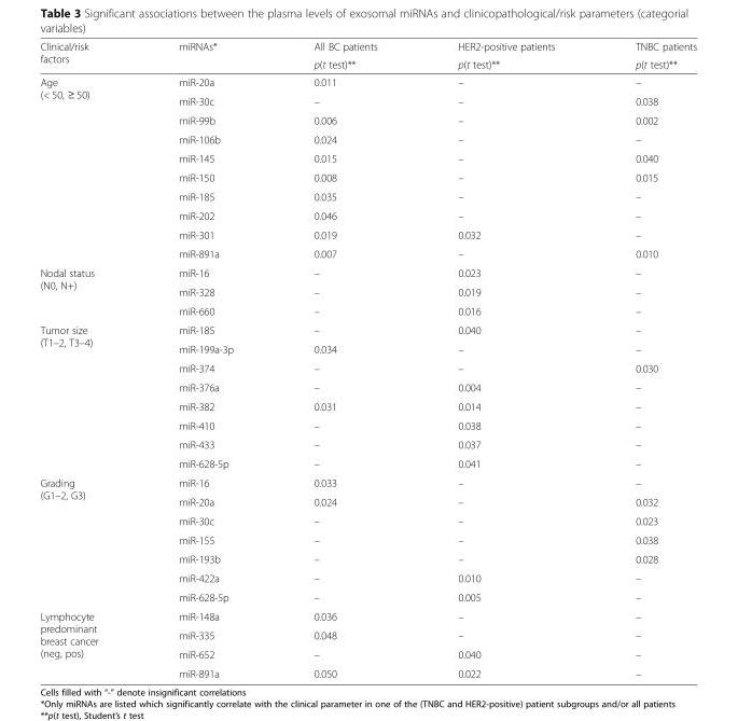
<table><thead><tr><td rowspan="2">Clinical/risk factors</td><td rowspan="2">miRNAs*</td><td rowspan="2">All BC patients p(t test)**</td><td rowspan="2">HER2-positive patients p(t test)**</td><td rowspan="2">TNBC patients p(t test)**</td></tr><tr></tr></thead><tbody><tr><td rowspan="10">Age (&lt; 50, ≥ 50)</td><td>miR-20a</td><td>0.011</td><td>–</td><td>–</td></tr><tr><td>miR-30c</td><td>–</td><td>–</td><td>0.038</td></tr><tr><td>miR-99b</td><td>0.006</td><td>–</td><td>0.002</td></tr><tr><td>miR-106b</td><td>0.024</td><td>–</td><td>–</td></tr><tr><td>miR-145</td><td>0.015</td><td>–</td><td>0.040</td></tr><tr><td>miR-150</td><td>0.008</td><td>–</td><td>0.015</td></tr><tr><td>miR-185</td><td>0.035</td><td>–</td><td>–</td></tr><tr><td>miR-202</td><td>0.046</td><td>–</td><td>–</td></tr><tr><td>miR-301</td><td>0.019</td><td>0.032</td><td>–</td></tr><tr><td>miR-891a</td><td>0.007</td><td>–</td><td>0.010</td></tr><tr><td rowspan="3">Nodal status (N0, N+)</td><td>miR-16</td><td>–</td><td>0.023</td><td>–</td></tr><tr><td>miR-328</td><td>–</td><td>0.019</td><td>–</td></tr><tr><td>miR-660</td><td>–</td><td>0.016</td><td>–</td></tr><tr><td rowspan="8">Tumor size (T1–2, T3–4)</td><td>miR-185</td><td>–</td><td>0.040</td><td>–</td></tr><tr><td>miR-199a-3p</td><td>0.034</td><td>–</td><td>–</td></tr><tr><td>miR-374</td><td>–</td><td>–</td><td>0.030</td></tr><tr><td>miR-376a</td><td>–</td><td>0.004</td><td>–</td></tr><tr><td>miR-382</td><td>0.031</td><td>0.014</td><td>–</td></tr><tr><td>miR-410</td><td>–</td><td>0.038</td><td>–</td></tr><tr><td>miR-433</td><td>–</td><td>0.037</td><td>–</td></tr><tr><td>miR-628-5p</td><td>–</td><td>0.041</td><td>–</td></tr><tr><td rowspan="7">Grading (G1–2, G3)</td><td>miR-16</td><td>0.033</td><td>–</td><td>–</td></tr><tr><td>miR-20a</td><td>0.024</td><td>–</td><td>0.032</td></tr><tr><td>miR-30c</td><td>–</td><td>–</td><td>0.023</td></tr><tr><td>miR-155</td><td>–</td><td>–</td><td>0.038</td></tr><tr><td>miR-193b</td><td>–</td><td>–</td><td>0.028</td></tr><tr><td>miR-422a</td><td>–</td><td>0.010</td><td>–</td></tr><tr><td>miR-628-5p</td><td>–</td><td>0.005</td><td>–</td></tr><tr><td rowspan="4">Lymphocyte predominant breast cancer (neg, pos)</td><td>miR-148a</td><td>0.036</td><td>–</td><td>–</td></tr><tr><td>miR-335</td><td>0.048</td><td>–</td><td>–</td></tr><tr><td>miR-652</td><td>–</td><td>0.040</td><td>–</td></tr><tr><td>miR-891a</td><td>0.050</td><td>0.022</td><td>–</td></tr></tbody></table>